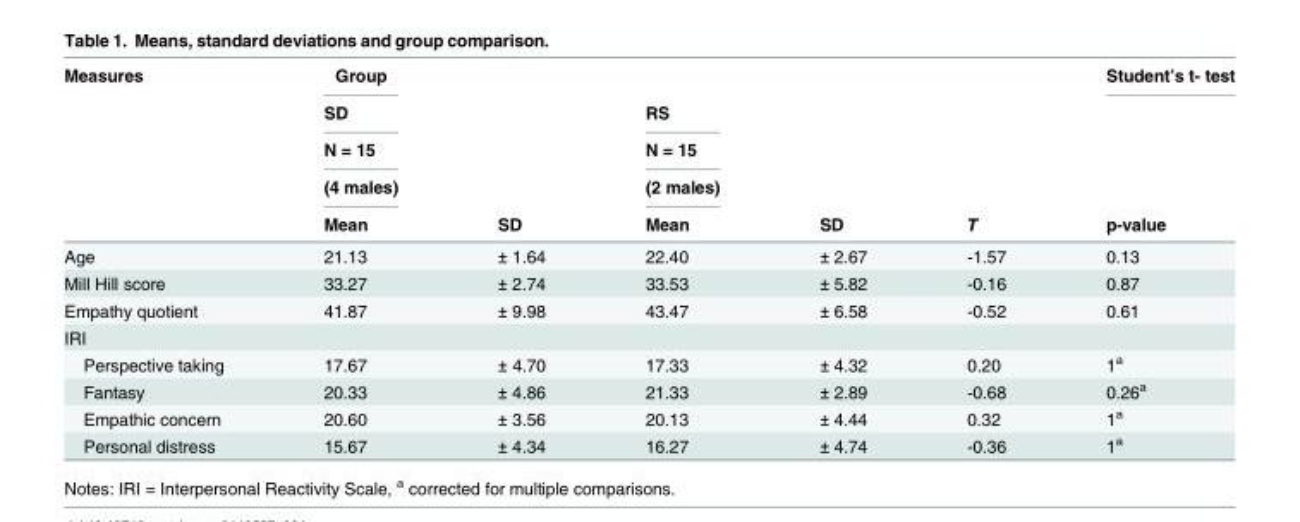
<table><thead><tr><td rowspan="5">Measures</td><td rowspan="5">Group SD N = 15 (4 males) Mean</td><td rowspan="5">SD</td><td rowspan="5">RS N = 15 (2 males) Mean</td><td rowspan="5">SD</td><td rowspan="5">T</td><td rowspan="5">Student’s t- test p-value</td></tr><tr></tr><tr></tr><tr></tr><tr></tr></thead><tbody><tr><td>Age</td><td>21.13</td><td>± 1.64</td><td>22.40</td><td>± 2.67</td><td>-1.57</td><td>0.13</td></tr><tr><td>Mill Hill score</td><td>33.27</td><td>± 2.74</td><td>33.53</td><td>± 5.82</td><td>-0.16</td><td>0.87</td></tr><tr><td>Empathy quotient</td><td>41.87</td><td>± 9.98</td><td>43.47</td><td>± 6.58</td><td>-0.52</td><td>0.61</td></tr><tr><td colspan="7">IRI</td></tr><tr><td>Perspective taking</td><td>17.67</td><td>± 4.70</td><td>17.33</td><td>± 4.32</td><td>0.20</td><td>1<sup>a</sup></td></tr><tr><td>Fantasy</td><td>20.33</td><td>± 4.86</td><td>21.33</td><td>± 2.89</td><td>-0.68</td><td>0.26<sup>a</sup></td></tr><tr><td>Empathic concern</td><td>20.60</td><td>± 3.56</td><td>20.13</td><td>± 4.44</td><td>0.32</td><td>1<sup>a</sup></td></tr><tr><td>Personal distress</td><td>15.67</td><td>± 4.34</td><td>16.27</td><td>± 4.74</td><td>-0.36</td><td>1<sup>a</sup></td></tr></tbody></table>